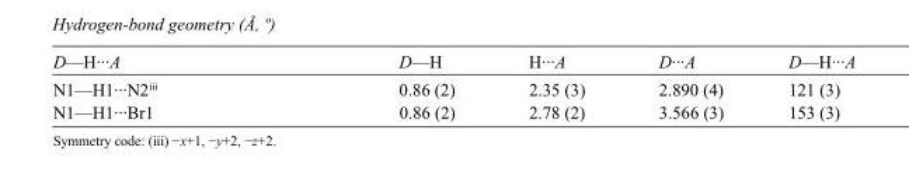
<table><tbody><tr><td>D—H···A</td><td>D—H</td><td>H···A</td><td>D···A</td><td>D—H···A</td></tr><tr><td>N1—H1···N2<sup>iii</sup></td><td>0.86 (2)</td><td>2.35 (3)</td><td>2.890 (4)</td><td>121 (3)</td></tr><tr><td>N1—H1···Br1</td><td>0.86 (2)</td><td>2.78 (2)</td><td>3.566 (3)</td><td>153 (3)</td></tr></tbody></table>